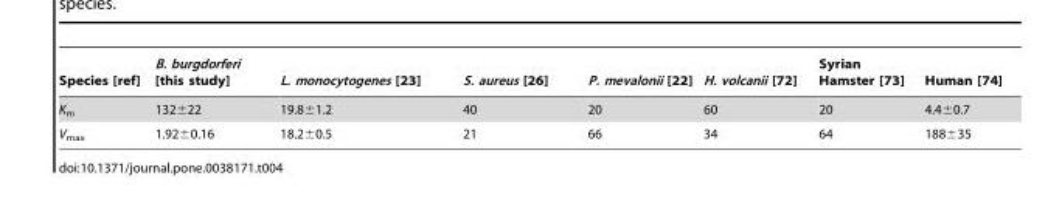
<table><thead><tr><td>Species [ref]</td><td>B. burgdorferi [this study]</td><td>L. monocytogenes [23]</td><td>S. aureus [26]</td><td>P. mevalonii [22]</td><td>H. volcanii [72]</td><td>Syrian Hamster [73]</td><td>Human [74]</td></tr></thead><tbody><tr><td>K<sub>m</sub></td><td>132±22</td><td>19.8±1.2</td><td>40</td><td>20</td><td>60</td><td>20</td><td>4.4±0.7</td></tr><tr><td>V<sub>max</sub></td><td>1.92±0.16</td><td>18.2±0.5</td><td>21</td><td>66</td><td>34</td><td>64</td><td>188±35</td></tr></tbody></table>